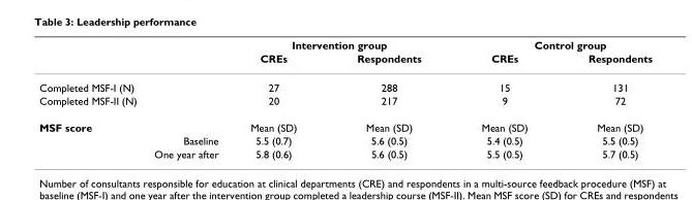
<table><thead><tr><td rowspan="2"></td><td colspan="2">Intervention group</td><td colspan="2">Control group</td></tr><tr><td>CREs</td><td>Respondents</td><td>CREs</td><td>Respondents</td></tr></thead><tbody><tr><td>Completed MSF-I (N)</td><td>27</td><td>288</td><td>15</td><td>131</td></tr><tr><td>Completed MSF-II (N)</td><td>20</td><td>217</td><td>9</td><td>72</td></tr><tr><td>MSF score</td><td>Mean (SD)</td><td>Mean (SD)</td><td>Mean (SD)</td><td>Mean (SD)</td></tr><tr><td>Baseline</td><td>5.5 (0.7)</td><td>5.6 (0.5)</td><td>5.4 (0.5)</td><td>5.5 (0.5)</td></tr><tr><td>One year after</td><td>5.8 (0.6)</td><td>5.6 (0.5)</td><td>5.5 (0.5)</td><td>5.7 (0.5)</td></tr></tbody></table>